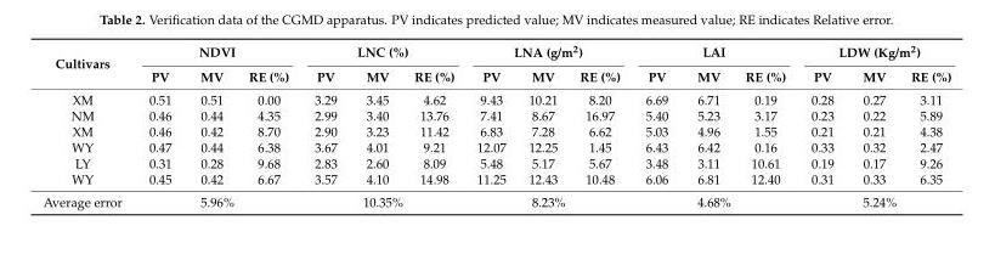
<table><thead><tr><td rowspan="2">Cultivars</td><td colspan="3">NDVI</td><td colspan="3">LNC (%)</td><td colspan="3">LNA (g/m<sup>2</sup>)</td><td colspan="3">LAI</td><td colspan="3">LDW (Kg/m<sup>2</sup>)</td></tr><tr><td>PV</td><td>MV</td><td>RE (%)</td><td>PV</td><td>MV</td><td>RE (%)</td><td>PV</td><td>MV</td><td>RE (%)</td><td>PV</td><td>MV</td><td>RE (%)</td><td>PV</td><td>MV</td><td>RE (%)</td></tr></thead><tbody><tr><td>XM</td><td>0.51</td><td>0.51</td><td>0.00</td><td>3.29</td><td>3.45</td><td>4.62</td><td>9.43</td><td>10.21</td><td>8.20</td><td>6.69</td><td>6.71</td><td>0.19</td><td>0.28</td><td>0.27</td><td>3.11</td></tr><tr><td>NM</td><td>0.46</td><td>0.44</td><td>4.35</td><td>2.99</td><td>3.40</td><td>13.76</td><td>7.41</td><td>8.67</td><td>16.97</td><td>5.40</td><td>5.23</td><td>3.17</td><td>0.23</td><td>0.22</td><td>5.89</td></tr><tr><td>XM</td><td>0.46</td><td>0.42</td><td>8.70</td><td>2.90</td><td>3.23</td><td>11.42</td><td>6.83</td><td>7.28</td><td>6.62</td><td>5.03</td><td>4.96</td><td>1.55</td><td>0.21</td><td>0.21</td><td>4.38</td></tr><tr><td>WY</td><td>0.47</td><td>0.44</td><td>6.38</td><td>3.67</td><td>4.01</td><td>9.21</td><td>12.07</td><td>12.25</td><td>1.45</td><td>6.43</td><td>6.42</td><td>0.16</td><td>0.33</td><td>0.32</td><td>2.47</td></tr><tr><td>LY</td><td>0.31</td><td>0.28</td><td>9.68</td><td>2.83</td><td>2.60</td><td>8.09</td><td>5.48</td><td>5.17</td><td>5.67</td><td>3.48</td><td>3.11</td><td>10.61</td><td>0.19</td><td>0.17</td><td>9.26</td></tr><tr><td>WY</td><td>0.45</td><td>0.42</td><td>6.67</td><td>3.57</td><td>4.10</td><td>14.98</td><td>11.25</td><td>12.43</td><td>10.48</td><td>6.06</td><td>6.81</td><td>12.40</td><td>0.31</td><td>0.33</td><td>6.35</td></tr><tr><td>Average error</td><td colspan="3">5.96%</td><td colspan="3">10.35%</td><td colspan="3">8.23%</td><td colspan="3">4.68%</td><td colspan="3">5.24%</td></tr></tbody></table>